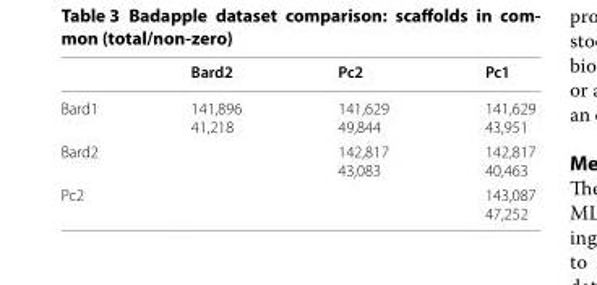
<table><thead><tr><td></td><td>Bard2</td><td>Pc2</td><td>Pc1</td></tr></thead><tbody><tr><td>Bard1</td><td>141,896 41,218</td><td>141,629 49,844</td><td>141,629 43,951</td></tr><tr><td>Bard2</td><td></td><td>142,817 43,083</td><td>142,817 40,463</td></tr><tr><td>Pc2</td><td></td><td></td><td>143,087 47,252</td></tr></tbody></table>